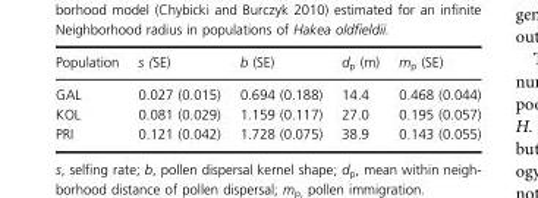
<table><thead><tr><td>Population</td><td>s (SE)</td><td>b (SE)</td><td>d<sub>p</sub> (m)</td><td>m<sub>p</sub> (SE)</td></tr></thead><tbody><tr><td>GAL</td><td>0.027 (0.015)</td><td>0.694 (0.188)</td><td>14.4</td><td>0.468 (0.044)</td></tr><tr><td>KOL</td><td>0.081 (0.029)</td><td>1.159 (0.117)</td><td>27.0</td><td>0.195 (0.057)</td></tr><tr><td>PRI</td><td>0.121 (0.042)</td><td>1.728 (0.075)</td><td>38.9</td><td>0.143 (0.055)</td></tr></tbody></table>